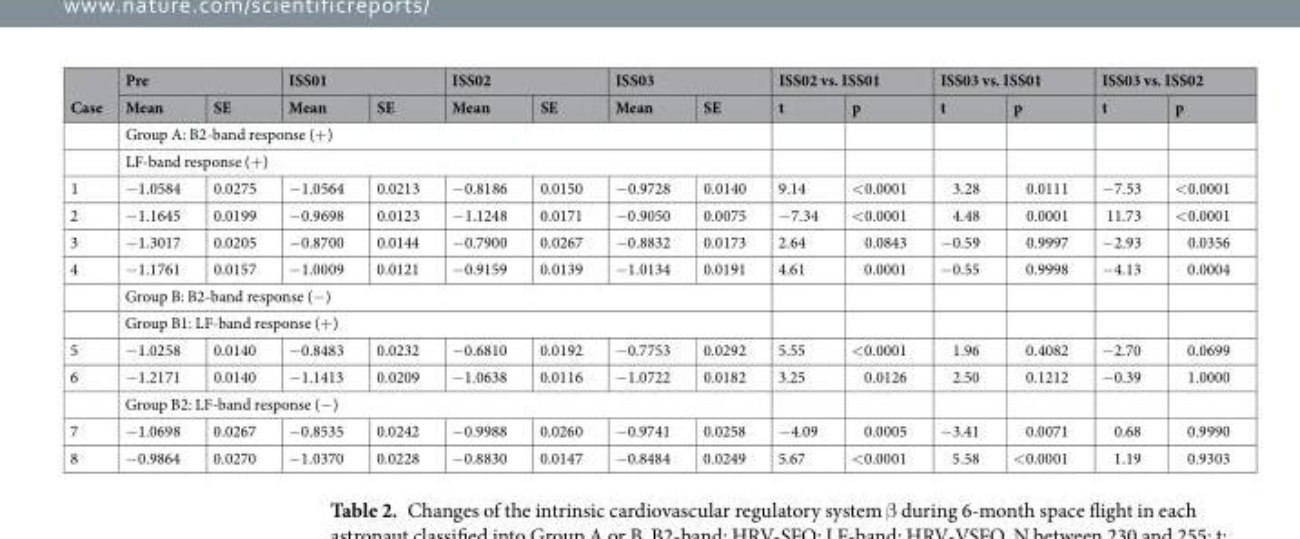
<table><thead><tr><td rowspan="2">Case</td><td colspan="2">Pre</td><td colspan="2">ISS01</td><td colspan="2">ISS02</td><td colspan="2">ISS03</td><td colspan="2">ISS02 vs. ISS01</td><td colspan="2">ISS03 vs. ISS01</td><td colspan="2">ISS03 vs. ISS02</td></tr><tr><td>Mean</td><td>SE</td><td>Mean</td><td>SE</td><td>Mean</td><td>SE</td><td>Mean</td><td>SE</td><td>t</td><td>p</td><td>t</td><td>p</td><td>t</td><td>p</td></tr></thead><tbody><tr><td></td><td colspan="8">Group A: B2-band response (+)</td><td></td><td></td><td></td><td></td><td></td><td></td></tr><tr><td></td><td colspan="8">LF-band response (+)</td><td></td><td></td><td></td><td></td><td></td><td></td></tr><tr><td>1</td><td>−1.0584</td><td>0.0275</td><td>−1.0564</td><td>0.0213</td><td>−0.8186</td><td>0.0150</td><td>−0.9728</td><td>0.0140</td><td>9.14</td><td>&lt;0.0001</td><td>3.28</td><td>0.0111</td><td>−7.53</td><td>&lt;0.0001</td></tr><tr><td>2</td><td>−1.1645</td><td>0.0199</td><td>−0.9698</td><td>0.0123</td><td>−1.1248</td><td>0.0171</td><td>−0.9050</td><td>0.0075</td><td>−7.34</td><td>&lt;0.0001</td><td>4.48</td><td>0.0001</td><td>11.73</td><td>&lt;0.0001</td></tr><tr><td>3</td><td>−1.3017</td><td>0.0205</td><td>−0.8700</td><td>0.0144</td><td>−0.7900</td><td>0.0267</td><td>−0.8832</td><td>0.0173</td><td>2.64</td><td>0.0843</td><td>−0.59</td><td>0.9997</td><td>−2.93</td><td>0.0356</td></tr><tr><td rowspan="3">4</td><td>−1.1761</td><td>0.0157</td><td>−1.0009</td><td>0.0121</td><td>−0.9159</td><td>0.0139</td><td>−1.0134</td><td>0.0191</td><td>4.61</td><td>0.0001</td><td>−0.55</td><td>0.9998</td><td>−4.13</td><td>0.0004</td></tr><tr><td colspan="8">Group B: B2-band response (−)</td><td></td><td></td><td></td><td></td><td></td><td></td></tr><tr><td colspan="8">Group B1: LF-band response (+)</td><td></td><td></td><td></td><td></td><td></td><td></td></tr><tr><td>5</td><td>−1.0258</td><td>0.0140</td><td>−0.8483</td><td>0.0232</td><td>−0.6810</td><td>0.0192</td><td>−0.7753</td><td>0.0292</td><td>5.55</td><td>&lt;0.0001</td><td>1.96</td><td>0.4082</td><td>−2.70</td><td>0.0699</td></tr><tr><td rowspan="2">6</td><td>−1.2171</td><td>0.0140</td><td>−1.1413</td><td>0.0209</td><td>−1.0638</td><td>0.0116</td><td>−1.0722</td><td>0.0182</td><td>3.25</td><td>0.0126</td><td>2.50</td><td>0.1212</td><td>−0.39</td><td>1.0000</td></tr><tr><td colspan="8">Group B2: LF-band response (−)</td><td></td><td></td><td></td><td></td><td></td><td></td></tr><tr><td>7</td><td>−1.0698</td><td>0.0267</td><td>−0.8535</td><td>0.0242</td><td>−0.9988</td><td>0.0260</td><td>−0.9741</td><td>0.0258</td><td>−4.09</td><td>0.0005</td><td>−3.41</td><td>0.0071</td><td>0.68</td><td>0.9990</td></tr><tr><td>8</td><td>−0.9864</td><td>0.0270</td><td>−1.0370</td><td>0.0228</td><td>−0.8830</td><td>0.0147</td><td>−0.8484</td><td>0.0249</td><td>5.67</td><td>&lt;0.0001</td><td>5.58</td><td>&lt;0.0001</td><td>1.19</td><td>0.9303</td></tr></tbody></table>